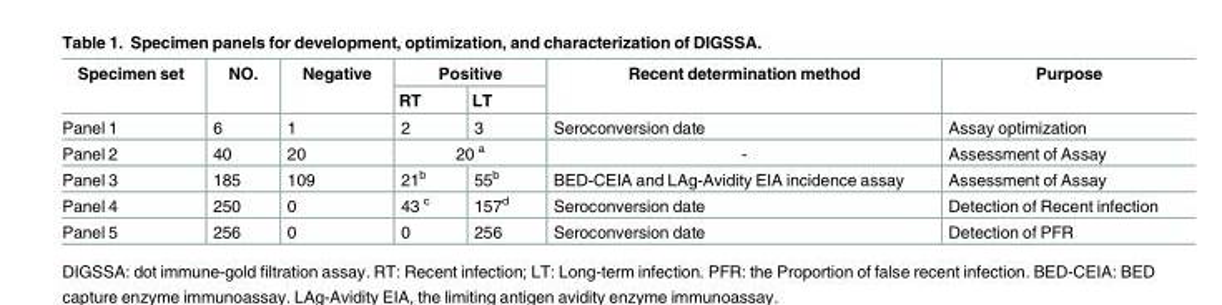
<table><thead><tr><td rowspan="2">Specimen set</td><td rowspan="2">NO.</td><td rowspan="2">Negative</td><td colspan="2">Positive</td><td rowspan="2">Recent determination method</td><td rowspan="2">Purpose</td></tr><tr><td>RT</td><td>LT</td></tr></thead><tbody><tr><td>Panel 1</td><td>6</td><td>1</td><td>2</td><td>3</td><td>Seroconversion date</td><td>Assay optimization</td></tr><tr><td>Panel 2</td><td>40</td><td>20</td><td colspan="2">20 <sup>a</sup></td><td>-</td><td>Assessment of Assay</td></tr><tr><td>Panel 3</td><td>185</td><td>109</td><td>21<sup>b</sup></td><td>55<sup>b</sup></td><td>BED-CEIA and LAg-Avidity EIA incidence assay</td><td>Assessment of Assay</td></tr><tr><td>Panel 4</td><td>250</td><td>0</td><td>43 <sup>c</sup></td><td>157<sup>d</sup></td><td>Seroconversion date</td><td>Detection of Recent infection</td></tr><tr><td>Panel 5</td><td>256</td><td>0</td><td>0</td><td>256</td><td>Seroconversion date</td><td>Detection of PFR</td></tr></tbody></table>